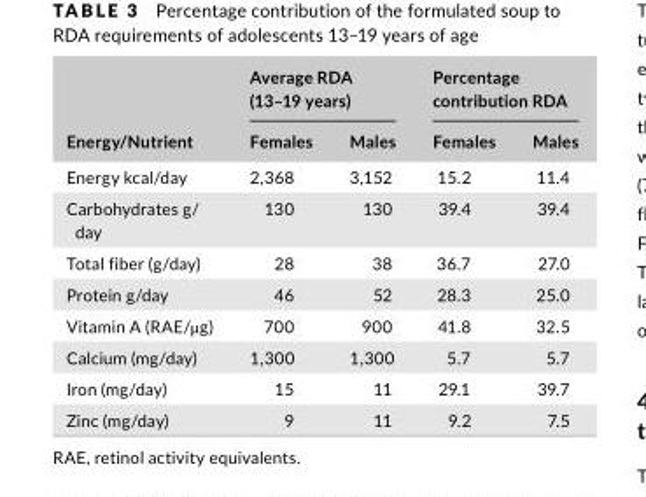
<table><thead><tr><td rowspan="2">Energy/Nutrient</td><td colspan="2">Average RDA (13–19 years)</td><td colspan="2">Percentage contribution RDA</td></tr><tr><td>Females</td><td>Males</td><td>Females</td><td>Males</td></tr></thead><tbody><tr><td>Energy kcal/day</td><td>2,368</td><td>3,152</td><td>15.2</td><td>11.4</td></tr><tr><td>Carbohydrates g/ day</td><td>130</td><td>130</td><td>39.4</td><td>39.4</td></tr><tr><td>Total fiber (g/day)</td><td>28</td><td>38</td><td>36.7</td><td>27.0</td></tr><tr><td>Protein g/day</td><td>46</td><td>52</td><td>28.3</td><td>25.0</td></tr><tr><td>Vitamin A (RAE/μg)</td><td>700</td><td>900</td><td>41.8</td><td>32.5</td></tr><tr><td>Calcium (mg/day)</td><td>1,300</td><td>1,300</td><td>5.7</td><td>5.7</td></tr><tr><td>Iron (mg/day)</td><td>15</td><td>11</td><td>29.1</td><td>39.7</td></tr><tr><td>Zinc (mg/day)</td><td>9</td><td>11</td><td>9.2</td><td>7.5</td></tr></tbody></table>